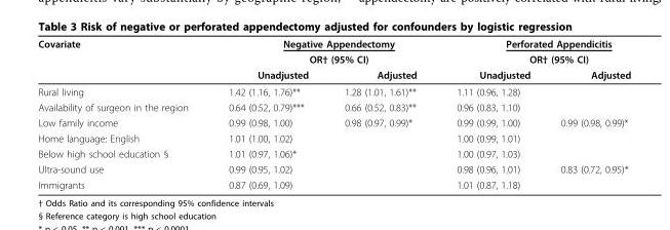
<table><thead><tr><td rowspan="3">Covariate</td><td rowspan="2" colspan="2">Negative Appendectomy OR† (95% CI)</td><td rowspan="2" colspan="2">Perforated Appendicitis OR† (95% CI)</td></tr><tr></tr><tr><td>Unadjusted</td><td>Adjusted</td><td>Unadjusted</td><td>Adjusted</td></tr></thead><tbody><tr><td>Rural living</td><td>1.42 (1.16, 1.76)**</td><td>1.28 (1.01, 1.61)**</td><td>1.11 (0.96, 1.28)</td><td></td></tr><tr><td>Availability of surgeon in the region</td><td>0.64 (0.52, 0.79)***</td><td>0.66 (0.52, 0.83)**</td><td>0.96 (0.83, 1.10)</td><td></td></tr><tr><td>Low family income</td><td>0.99 (0.98, 1.00)</td><td>0.98 (0.97, 0.99)*</td><td>0.99 (0.99, 1.00)</td><td>0.99 (0.98, 0.99)*</td></tr><tr><td>Home language: English</td><td>1.01 (1.00, 1.02)</td><td></td><td>1.00 (0.99, 1.01)</td><td></td></tr><tr><td>Below high school education §</td><td>1.01 (0.97, 1.06)*</td><td></td><td>1.00 (0.97, 1.03)</td><td></td></tr><tr><td>Ultra-sound use</td><td>0.99 (0.95, 1.02)</td><td></td><td>0.98 (0.96, 1.01)</td><td>0.83 (0.72, 0.95)*</td></tr><tr><td>Immigrants</td><td>0.87 (0.69, 1.09)</td><td></td><td>1.01 (0.87, 1.18)</td><td></td></tr></tbody></table>